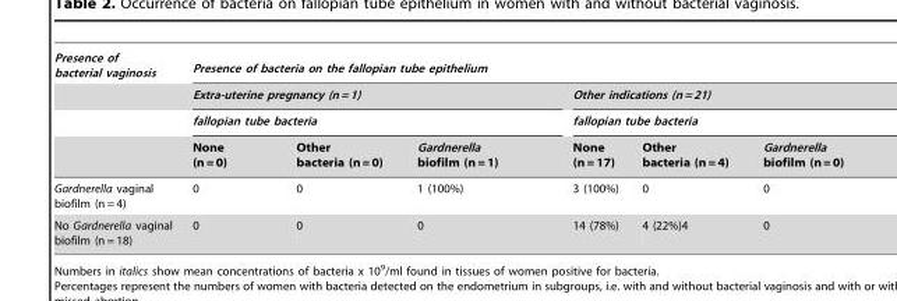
<table><thead><tr><td rowspan="4">Presence of bacterial vaginosis</td><td colspan="6">Presence of bacteria on the fallopian tube epithelium</td></tr><tr><td rowspan="2" colspan="3">Extra-uterine pregnancy (n = 1) fallopian tube bacteria</td><td rowspan="2" colspan="3">Other indications (n = 21) fallopian tube bacteria</td></tr><tr></tr><tr><td>None (n = 0)</td><td>Other bacteria (n = 0)</td><td>Gardnerella biofilm (n = 1)</td><td>None (n = 17)</td><td>Other bacteria (n = 4)</td><td>Gardnerella biofilm (n = 0)</td></tr></thead><tbody><tr><td>Gardnerella vaginal biofilm (n = 4)</td><td>0</td><td>0</td><td>1 (100%)</td><td>3 (100%)</td><td>0</td><td>0</td></tr><tr><td>No Gardnerella vaginal biofilm (n = 18)</td><td>0</td><td>0</td><td>0</td><td>14 (78%)</td><td>4 (22%)4</td><td>0</td></tr></tbody></table>